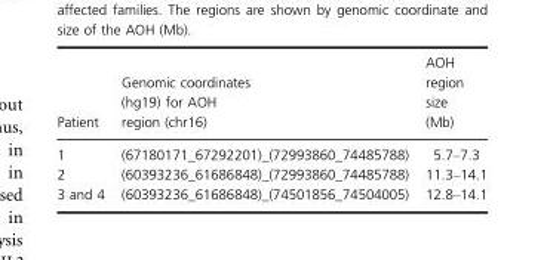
<table><thead><tr><td>Patient</td><td>Genomic coordinates (hg19) for AOH region (chr16)</td><td>AOH region size (Mb)</td></tr></thead><tbody><tr><td>1</td><td>(67180171_67292201)_(72993860_74485788)</td><td>5.7–7.3</td></tr><tr><td>2</td><td>(60393236_61686848)_(72993860_74485788)</td><td>11.3–14.1</td></tr><tr><td>3 and 4</td><td>(60393236_61686848)_(74501856_74504005)</td><td>12.8–14.1</td></tr></tbody></table>